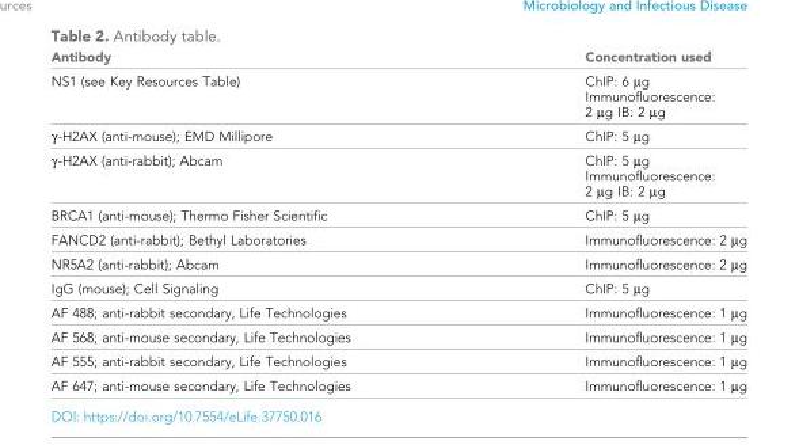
<table><thead><tr><td>Antibody</td><td>Concentration used</td></tr></thead><tbody><tr><td>NS1 (see Key Resources Table)</td><td>ChIP: 6 μg Immunofluorescence: 2 μg IB: 2 μg</td></tr><tr><td>γ-H2AX (anti-mouse); EMD Millipore</td><td>ChIP: 5 μg</td></tr><tr><td>γ-H2AX (anti-rabbit); Abcam</td><td>ChIP: 5 μg Immunofluorescence: 2 μg IB: 2 μg</td></tr><tr><td>BRCA1 (anti-mouse); Thermo Fisher Scientific</td><td>ChIP: 5 μg</td></tr><tr><td>FANCD2 (anti-rabbit); Bethyl Laboratories</td><td>Immunofluorescence: 2 μg</td></tr><tr><td>NR5A2 (anti-rabbit); Abcam</td><td>Immunofluorescence: 2 μg</td></tr><tr><td>IgG (mouse); Cell Signaling</td><td>ChIP: 5 μg</td></tr><tr><td>AF 488; anti-rabbit secondary, Life Technologies</td><td>Immunofluorescence: 1 μg</td></tr><tr><td>AF 568; anti-mouse secondary, Life Technologies</td><td>Immunofluorescence: 1 μg</td></tr><tr><td>AF 555; anti-rabbit secondary, Life Technologies</td><td>Immunofluorescence: 1 μg</td></tr><tr><td>AF 647; anti-mouse secondary, Life Technologies</td><td>Immunofluorescence: 1 μg</td></tr></tbody></table>